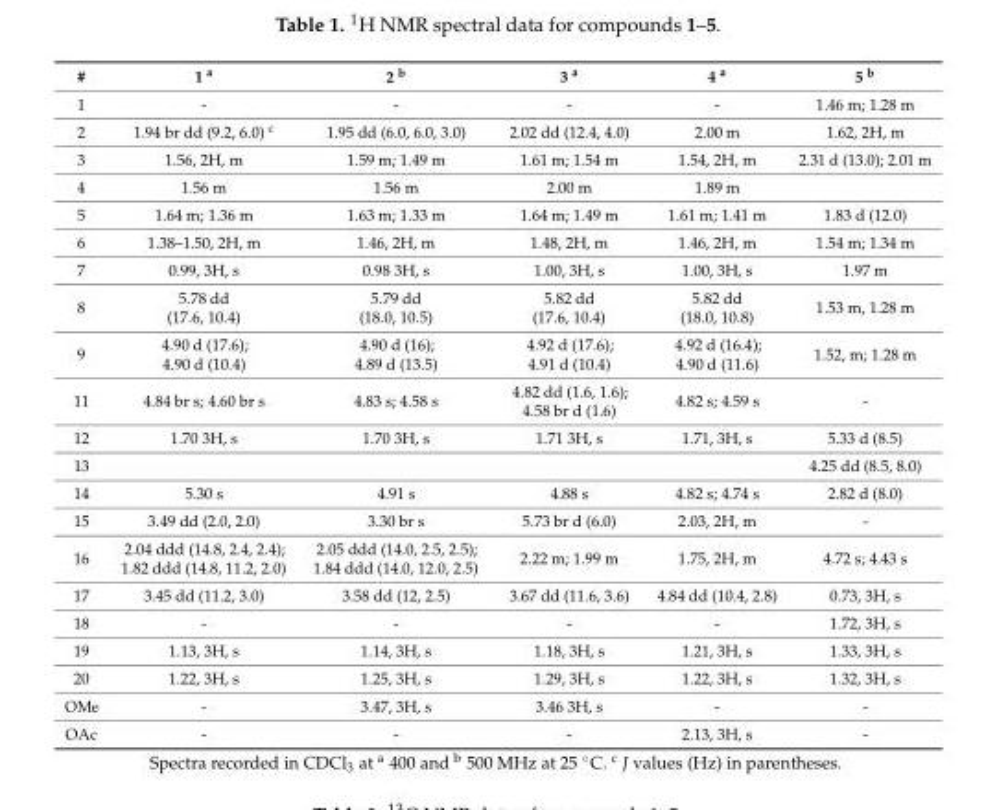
<table><thead><tr><td>#</td><td>1 <sup>a</sup></td><td>2 <sup>b</sup></td><td>3 <sup>a</sup></td><td>4 <sup>a</sup></td><td>5 <sup>b</sup></td></tr></thead><tbody><tr><td>1</td><td>-</td><td>-</td><td>-</td><td>-</td><td>1.46 m; 1.28 m</td></tr><tr><td>2</td><td>1.94 br dd (9.2, 6.0) <sup>c</sup></td><td>1.95 dd (6.0, 6.0, 3.0)</td><td>2.02 dd (12.4, 4.0)</td><td>2.00 m</td><td>1.62, 2H, m</td></tr><tr><td>3</td><td>1.56, 2H, m</td><td>1.59 m; 1.49 m</td><td>1.61 m; 1.54 m</td><td>1.54, 2H, m</td><td>2.31 d (13.0); 2.01 m</td></tr><tr><td>4</td><td>1.56 m</td><td>1.56 m</td><td>2.00 m</td><td>1.89 m</td><td></td></tr><tr><td>5</td><td>1.64 m; 1.36 m</td><td>1.63 m; 1.33 m</td><td>1.64 m; 1.49 m</td><td>1.61 m; 1.41 m</td><td>1.83 d (12.0)</td></tr><tr><td>6</td><td>1.38–1.50, 2H, m</td><td>1.46, 2H, m</td><td>1.48, 2H, m</td><td>1.46, 2H, m</td><td>1.54 m; 1.34 m</td></tr><tr><td>7</td><td>0.99, 3H, s</td><td>0.98 3H, s</td><td>1.00, 3H, s</td><td>1.00, 3H, s</td><td>1.97 m</td></tr><tr><td>8</td><td>5.78 dd (17.6, 10.4)</td><td>5.79 dd (18.0, 10.5)</td><td>5.82 dd (17.6, 10.4)</td><td>5.82 dd (18.0, 10.8)</td><td>1.53 m, 1.28 m</td></tr><tr><td>9</td><td>4.90 d (17.6); 4.90 d (10.4)</td><td>4.90 d (16); 4.89 d (13.5)</td><td>4.92 d (17.6); 4.91 d (10.4)</td><td>4.92 d (16.4); 4.90 d (11.6)</td><td>1.52, m; 1.28 m</td></tr><tr><td>11</td><td>4.84 br s; 4.60 br s</td><td>4.83 s; 4.58 s</td><td>4.82 dd (1.6, 1.6); 4.58 br d (1.6)</td><td>4.82 s; 4.59 s</td><td>-</td></tr><tr><td>12</td><td>1.70 3H, s</td><td>1.70 3H, s</td><td>1.71 3H, s</td><td>1.71, 3H, s</td><td>5.33 d (8.5)</td></tr><tr><td>13</td><td></td><td></td><td></td><td></td><td>4.25 dd (8.5, 8.0)</td></tr><tr><td>14</td><td>5.30 s</td><td>4.91 s</td><td>4.88 s</td><td>4.82 s; 4.74 s</td><td>2.82 d (8.0)</td></tr><tr><td>15</td><td>3.49 dd (2.0, 2.0)</td><td>3.30 br s</td><td>5.73 br d (6.0)</td><td>2.03, 2H, m</td><td>-</td></tr><tr><td>16</td><td>2.04 ddd (14.8, 2.4, 2.4); 1.82 ddd (14.8, 11.2, 2.0)</td><td>2.05 ddd (14.0, 2.5, 2.5); 1.84 ddd (14.0, 12.0, 2.5)</td><td>2.22 m; 1.99 m</td><td>1.75, 2H, m</td><td>4.72 s; 4.43 s</td></tr><tr><td>17</td><td>3.45 dd (11.2, 3.0)</td><td>3.58 dd (12, 2.5)</td><td>3.67 dd (11.6, 3.6)</td><td>4.84 dd (10.4, 2.8)</td><td>0.73, 3H, s</td></tr><tr><td>18</td><td>-</td><td>-</td><td>-</td><td>-</td><td>1.72, 3H, s</td></tr><tr><td>19</td><td>1.13, 3H, s</td><td>1.14, 3H, s</td><td>1.18, 3H, s</td><td>1.21, 3H, s</td><td>1.33, 3H, s</td></tr><tr><td>20</td><td>1.22, 3H, s</td><td>1.25, 3H, s</td><td>1.29, 3H, s</td><td>1.22, 3H, s</td><td>1.32, 3H, s</td></tr><tr><td>OMe</td><td>-</td><td>3.47, 3H, s</td><td>3.46 3H, s</td><td>-</td><td>-</td></tr><tr><td>OAc</td><td>-</td><td>-</td><td>-</td><td>2.13, 3H, s</td><td>-</td></tr></tbody></table>